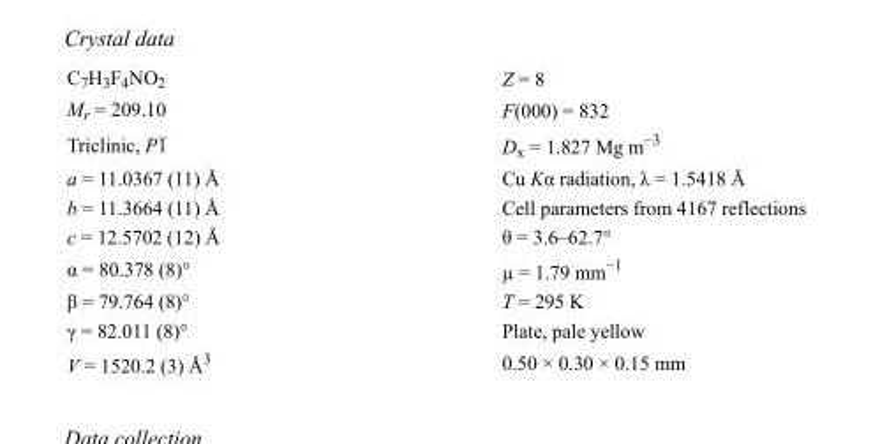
<table><tbody><tr><td>C<sub>7</sub>H<sub>3</sub>F<sub>4</sub>NO<sub>2</sub></td><td>Z = 8</td></tr><tr><td>M<sub>r</sub> = 209.10</td><td>F(000) = 832</td></tr><tr><td>Triclinic, P1</td><td>D<sub>x</sub> = 1.827 Mg m<sup>−3</sup></td></tr><tr><td>a = 11.0367 (11) Å</td><td>Cu Kα radiation, λ = 1.5418 Å</td></tr><tr><td>b = 11.3664 (11) Å</td><td>Cell parameters from 4167 reflections</td></tr><tr><td>c = 12.5702 (12) Å</td><td>θ = 3.6–62.7°</td></tr><tr><td>α = 80.378 (8)°</td><td>µ = 1.79 mm<sup>−1</sup></td></tr><tr><td>β = 79.764 (8)°</td><td>T = 295 K</td></tr><tr><td>γ = 82.011 (8)°</td><td>Plate, pale yellow</td></tr><tr><td>V = 1520.2 (3) Å<sup>3</sup></td><td>0.50 × 0.30 × 0.15 mm</td></tr></tbody></table>